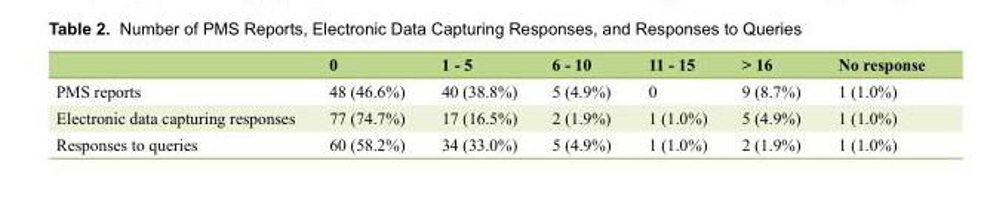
<table><thead><tr><td></td><td>0</td><td>1 - 5</td><td>6 - 10</td><td>11 - 15</td><td>&gt; 16</td><td>No response</td></tr></thead><tbody><tr><td>PMS reports</td><td>48 (46.6%)</td><td>40 (38.8%)</td><td>5 (4.9%)</td><td>0</td><td>9 (8.7%)</td><td>1 (1.0%)</td></tr><tr><td>Electronic data capturing responses</td><td>77 (74.7%)</td><td>17 (16.5%)</td><td>2 (1.9%)</td><td>1 (1.0%)</td><td>5 (4.9%)</td><td>1 (1.0%)</td></tr><tr><td>Responses to queries</td><td>60 (58.2%)</td><td>34 (33.0%)</td><td>5 (4.9%)</td><td>1 (1.0%)</td><td>2 (1.9%)</td><td>1 (1.0%)</td></tr></tbody></table>